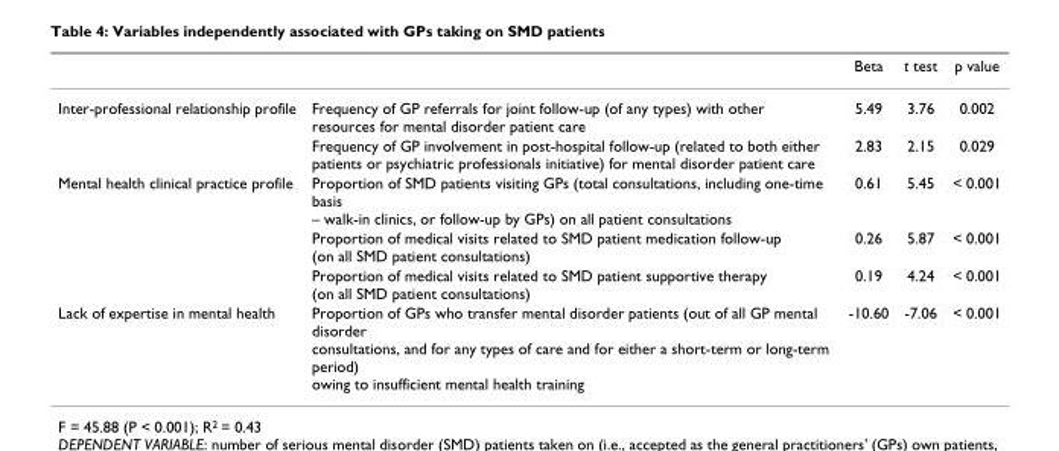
<table><thead><tr><td></td><td></td><td>Beta</td><td>t test</td><td>p value</td></tr></thead><tbody><tr><td rowspan="2">Inter-professional relationship profile</td><td>Frequency of GP referrals for joint follow-up (of any types) with other resources for mental disorder patient care</td><td>5.49</td><td>3.76</td><td>0.002</td></tr><tr><td>Frequency of GP involvement in post-hospital follow-up (related to both either patients or psychiatric professionals initiative) for mental disorder patient care</td><td>2.83</td><td>2.15</td><td>0.029</td></tr><tr><td rowspan="3">Mental health clinical practice profile</td><td>Proportion of SMD patients visiting GPs (total consultations, including one-time basis – walk-in clinics, or follow-up by GPs) on all patient consultations</td><td>0.61</td><td>5.45</td><td>&lt; 0.001</td></tr><tr><td>Proportion of medical visits related to SMD patient medication follow-up (on all SMD patient consultations)</td><td>0.26</td><td>5.87</td><td>&lt; 0.001</td></tr><tr><td>Proportion of medical visits related to SMD patient supportive therapy (on all SMD patient consultations)</td><td>0.19</td><td>4.24</td><td>&lt; 0.001</td></tr><tr><td>Lack of expertise in mental health</td><td>Proportion of GPs who transfer mental disorder patients (out of all GP mental disorder consultations, and for any types of care and for either a short-term or long-term period) owing to insufficient mental health training</td><td>-10.60</td><td>-7.06</td><td>&lt; 0.001</td></tr></tbody></table>